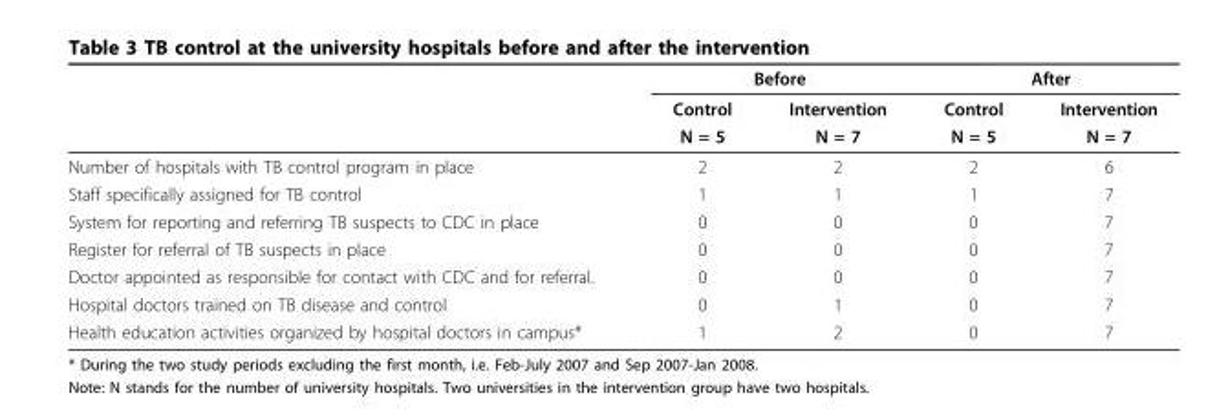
<table><thead><tr><td rowspan="3"></td><td colspan="2">Before</td><td colspan="2">After</td></tr><tr><td rowspan="2">Control N = 5</td><td rowspan="2">Intervention N = 7</td><td rowspan="2">Control N = 5</td><td rowspan="2">Intervention N = 7</td></tr><tr></tr></thead><tbody><tr><td>Number of hospitals with TB control program in place</td><td>2</td><td>2</td><td>2</td><td>6</td></tr><tr><td>Staff specifically assigned for TB control</td><td>1</td><td>1</td><td>1</td><td>7</td></tr><tr><td>System for reporting and referring TB suspects to CDC in place</td><td>0</td><td>0</td><td>0</td><td>7</td></tr><tr><td>Register for referral of TB suspects in place</td><td>0</td><td>0</td><td>0</td><td>7</td></tr><tr><td>Doctor appointed as responsible for contact with CDC and for referral.</td><td>0</td><td>0</td><td>0</td><td>7</td></tr><tr><td>Hospital doctors trained on TB disease and control</td><td>0</td><td>1</td><td>0</td><td>7</td></tr><tr><td>Health education activities organized by hospital doctors in campus*</td><td>1</td><td>2</td><td>0</td><td>7</td></tr></tbody></table>